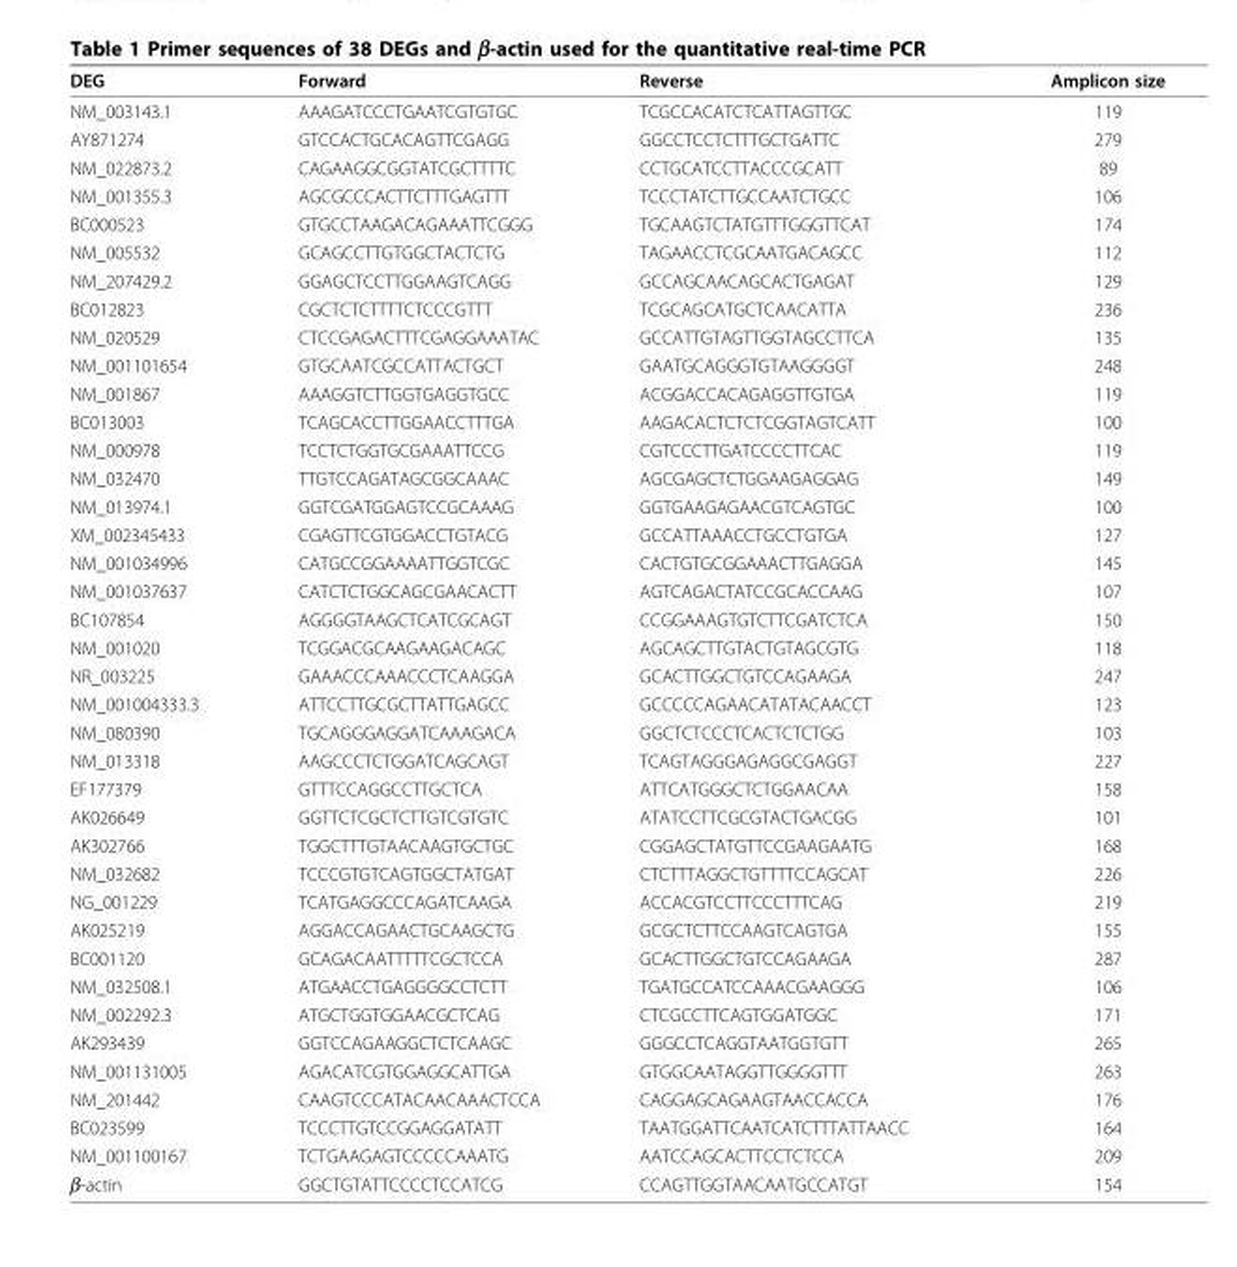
<table><thead><tr><td>DEG</td><td>Forward</td><td>Reverse</td><td>Amplicon size</td></tr></thead><tbody><tr><td>NM_003143.1</td><td>AAAGATCCCTGAATCGTGTGC</td><td>TCGCCACATCTCATTAGTTGC</td><td>119</td></tr><tr><td>AY871274</td><td>GTCCACTGCACAGTTCGAGG</td><td>GGCCTCCTCTTTGCTGATTC</td><td>279</td></tr><tr><td>NM_022873.2</td><td>CAGAAGGCGGTATCGCTTTTC</td><td>CCTGCATCCTTACCCGCATT</td><td>89</td></tr><tr><td>NM_001355.3</td><td>AGCGCCCACTTCTTTGAGTTT</td><td>TCCCTATCTTGCCAATCTGCC</td><td>106</td></tr><tr><td>BC000523</td><td>GTGCCTAAGACAGAAATTCGGG</td><td>TGCAAGTCTATGTTTGGGTTCAT</td><td>174</td></tr><tr><td>NM_005532</td><td>GCAGCCTTGTGGCTACTCTG</td><td>TAGAACCTCGCAATGACAGCC</td><td>112</td></tr><tr><td>NM_207429.2</td><td>GGAGCTCCTTGGAAGTCAGG</td><td>GCCAGCAACAGCACTGAGAT</td><td>129</td></tr><tr><td>BC012823</td><td>CGCTCTCTTTTCTCCCGTTT</td><td>TCGCAGCATGCTCAACATTA</td><td>236</td></tr><tr><td>NM_020529</td><td>CTCCGAGACTTTCGAGGAAATAC</td><td>GCCATTGTAGTTGGTAGCCTTCA</td><td>135</td></tr><tr><td>NM_001101654</td><td>GTGCAATCGCCATTACTGCT</td><td>GAATGCAGGGTGTAAGGGGT</td><td>248</td></tr><tr><td>NM_001867</td><td>AAAGGTCTTGGTGAGGTGCC</td><td>ACGGACCACAGAGGTTGTGA</td><td>119</td></tr><tr><td>BC013003</td><td>TCAGCACCTTGGAACCTTTGA</td><td>AAGACACTCTCTCGGTAGTCATT</td><td>100</td></tr><tr><td>NM_000978</td><td>TCCTCTGGTGCGAAATTCCG</td><td>CGTCCCTTGATCCCCTTCAC</td><td>119</td></tr><tr><td>NM_032470</td><td>TTGTCCAGATAGCGGCAAAC</td><td>AGCGAGCTCTGGAAGAGGAG</td><td>149</td></tr><tr><td>NM_013974.1</td><td>GGTCGATGGAGTCCGCAAAG</td><td>GGTGAAGAGAACGTCAGTGC</td><td>100</td></tr><tr><td>XM_002345433</td><td>CGAGTTCGTGGACCTGTACG</td><td>GCCATTAAACCTGCCTGTGA</td><td>127</td></tr><tr><td>NM_001034996</td><td>CATGCCGGAAAATTGGTCGC</td><td>CACTGTGCGGAAACTTGAGGA</td><td>145</td></tr><tr><td>NM_001037637</td><td>CATCTCTGGCAGCGAACACTT</td><td>AGTCAGACTATCCGCACCAAG</td><td>107</td></tr><tr><td>BC107854</td><td>AGGGGTAAGCTCATCGCAGT</td><td>CCGGAAAGTGTCTTCGATCTCA</td><td>150</td></tr><tr><td>NM_001020</td><td>TCGGACGCAAGAAGACAGC</td><td>AGCAGCTTGTACTGTAGCGTG</td><td>118</td></tr><tr><td>NR_003225</td><td>GAAACCCAAACCCTCAAGGA</td><td>GCACTTGGCTGTCCAGAAGA</td><td>247</td></tr><tr><td>NM_001004333.3</td><td>ATTCCTTGCGCTTATTGAGCC</td><td>GCCCCCAGAACATATACAACCT</td><td>123</td></tr><tr><td>NM_080390</td><td>TGCAGGGAGGATCAAAGACA</td><td>GGCTCTCCCTCACTCTCTGG</td><td>103</td></tr><tr><td>NM_013318</td><td>AAGCCCTCTGGATCAGCAGT</td><td>TCAGTAGGGAGAGGCGAGGT</td><td>227</td></tr><tr><td>EF177379</td><td>GTTTCCAGGCCTTGCTCA</td><td>ATTCATGGGCTCTGGAACAA</td><td>158</td></tr><tr><td>AK026649</td><td>GGTTCTCGCTCTTGTCGTGTC</td><td>ATATCCTTCGCGTACTGACGG</td><td>101</td></tr><tr><td>AK302766</td><td>TGGCTTTGTAACAAGTGCTGC</td><td>CGGAGCTATGTTCCGAAGAATG</td><td>168</td></tr><tr><td>NM_032682</td><td>TCCCGTGTCAGTGGCTATGAT</td><td>CTCTTTAGGCTGTTTTCCAGCAT</td><td>226</td></tr><tr><td>NG_001229</td><td>TCATGAGGCCCAGATCAAGA</td><td>ACCACGTCCTTCCCTTTCAG</td><td>219</td></tr><tr><td>AK025219</td><td>AGGACCAGAACTGCAAGCTG</td><td>GCGCTCTTCCAAGTCAGTGA</td><td>155</td></tr><tr><td>BC001120</td><td>GCAGACAATTTTTCGCTCCA</td><td>GCACTTGGCTGTCCAGAAGA</td><td>287</td></tr><tr><td>NM_032508.1</td><td>ATGAACCTGAGGGGCCTCTT</td><td>TGATGCCATCCAAACGAAGGG</td><td>106</td></tr><tr><td>NM_002292.3</td><td>ATGCTGGTGGAACGCTCAG</td><td>CTCGCCTTCAGTGGATGGC</td><td>171</td></tr><tr><td>AK293439</td><td>GGTCCAGAAGGCTCTCAAGC</td><td>GGGCCTCAGGTAATGGTGTT</td><td>265</td></tr><tr><td>NM_001131005</td><td>AGACATCGTGGAGGCATTGA</td><td>GTGGCAATAGGTTGGGGTTT</td><td>263</td></tr><tr><td>NM_201442</td><td>CAAGTCCCATACAACAAACTCCA</td><td>CAGGAGCAGAAGTAACCACCA</td><td>176</td></tr><tr><td>BC023599</td><td>TCCCTTGTCCGGAGGATATT</td><td>TAATGGATTCAATCATCTTTATTAACC</td><td>164</td></tr><tr><td>NM_001100167</td><td>TCTGAAGAGTCCCCCAAATG</td><td>AATCCAGCACTTCCTCTCCA</td><td>209</td></tr><tr><td>β-actin</td><td>GGCTGTATTCCCCTCCATCG</td><td>CCAGTTGGTAACAATGCCATGT</td><td>154</td></tr></tbody></table>